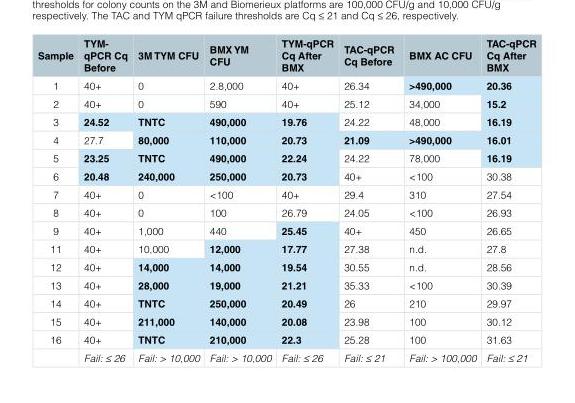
<table><thead><tr><td>Sample</td><td>TYM- qPCR Cq Before</td><td>3M TYM CFU</td><td>BMX YM CFU</td><td>TYM-qPCR Cq After BMX</td><td>TAC-qPCR Cq Before</td><td>BMX AC CFU</td><td>TAC-qPCR Cq After BMX</td></tr></thead><tbody><tr><td>1</td><td>40+</td><td>0</td><td>2.8,000</td><td>40+</td><td>26.34</td><td>&gt;490,000</td><td>20.36</td></tr><tr><td>2</td><td>40+</td><td>0</td><td>590</td><td>40+</td><td>25.12</td><td>34,000</td><td>15.2</td></tr><tr><td>3</td><td>24.52</td><td>TNTC</td><td>490,000</td><td>19.76</td><td>24.22</td><td>48,000</td><td>16.19</td></tr><tr><td>4</td><td>27.7</td><td>80,000</td><td>110,000</td><td>20.73</td><td>21.09</td><td>&gt;490,000</td><td>16.01</td></tr><tr><td>5</td><td>23.25</td><td>TNTC</td><td>490,000</td><td>22.24</td><td>24.22</td><td>78,000</td><td>16.19</td></tr><tr><td>6</td><td>20.48</td><td>240,000</td><td>250,000</td><td>20.73</td><td>40+</td><td>&lt;100</td><td>30.38</td></tr><tr><td>7</td><td>40+</td><td>0</td><td>&lt;100</td><td>40+</td><td>29.4</td><td>310</td><td>27.54</td></tr><tr><td>8</td><td>40+</td><td>0</td><td>100</td><td>26.79</td><td>24.05</td><td>&lt;100</td><td>26.93</td></tr><tr><td>9</td><td>40+</td><td>1,000</td><td>440</td><td>25.45</td><td>40+</td><td>450</td><td>26.65</td></tr><tr><td>11</td><td>40+</td><td>10,000</td><td>12,000</td><td>17.77</td><td>27.38</td><td>n.d.</td><td>27.8</td></tr><tr><td>12</td><td>40+</td><td>14,000</td><td>14,000</td><td>19.54</td><td>30.55</td><td>n.d.</td><td>28.56</td></tr><tr><td>13</td><td>40+</td><td>28,000</td><td>19,000</td><td>21.21</td><td>35.33</td><td>&lt;100</td><td>30.39</td></tr><tr><td>14</td><td>40+</td><td>TNTC</td><td>250,000</td><td>20.49</td><td>26</td><td>210</td><td>29.97</td></tr><tr><td>15</td><td>40+</td><td>211,000</td><td>140,000</td><td>20.08</td><td>23.98</td><td>100</td><td>30.12</td></tr><tr><td rowspan="2">16</td><td>40+</td><td>TNTC</td><td>210,000</td><td>22.3</td><td>25.28</td><td>100</td><td>31.63</td></tr><tr><td>Fail: ≤ 26</td><td>Fail: &gt; 10,000</td><td>Fail: &gt; 10,000</td><td>Fail: ≤ 26</td><td>Fail: ≤ 21</td><td>Fail: &gt; 100,000</td><td>Fail: ≤ 21</td></tr></tbody></table>